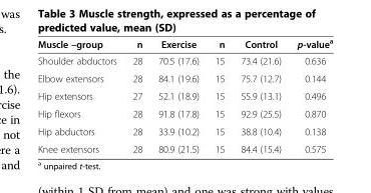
<table><thead><tr><td>Muscle –group</td><td>n</td><td>Exercise</td><td>n</td><td>Control</td><td>p-value<sup>a</sup></td></tr></thead><tbody><tr><td>Shoulder abductors</td><td>28</td><td>70.5 (17.6)</td><td>15</td><td>73.4 (21.6)</td><td>0.636</td></tr><tr><td>Elbow extensors</td><td>28</td><td>84.1 (19.6)</td><td>15</td><td>75.7 (12.7)</td><td>0.144</td></tr><tr><td>Hip extensors</td><td>27</td><td>52.1 (18.9)</td><td>15</td><td>55.9 (13.1)</td><td>0.496</td></tr><tr><td>Hip flexors</td><td>28</td><td>91.8 (17.8)</td><td>15</td><td>92.9 (25.5)</td><td>0.870</td></tr><tr><td>Hip abductors</td><td>28</td><td>33.9 (10.2)</td><td>15</td><td>38.8 (10.4)</td><td>0.138</td></tr><tr><td>Knee extensors</td><td>28</td><td>80.9 (21.5)</td><td>15</td><td>84.4 (15.4)</td><td>0.575</td></tr></tbody></table>